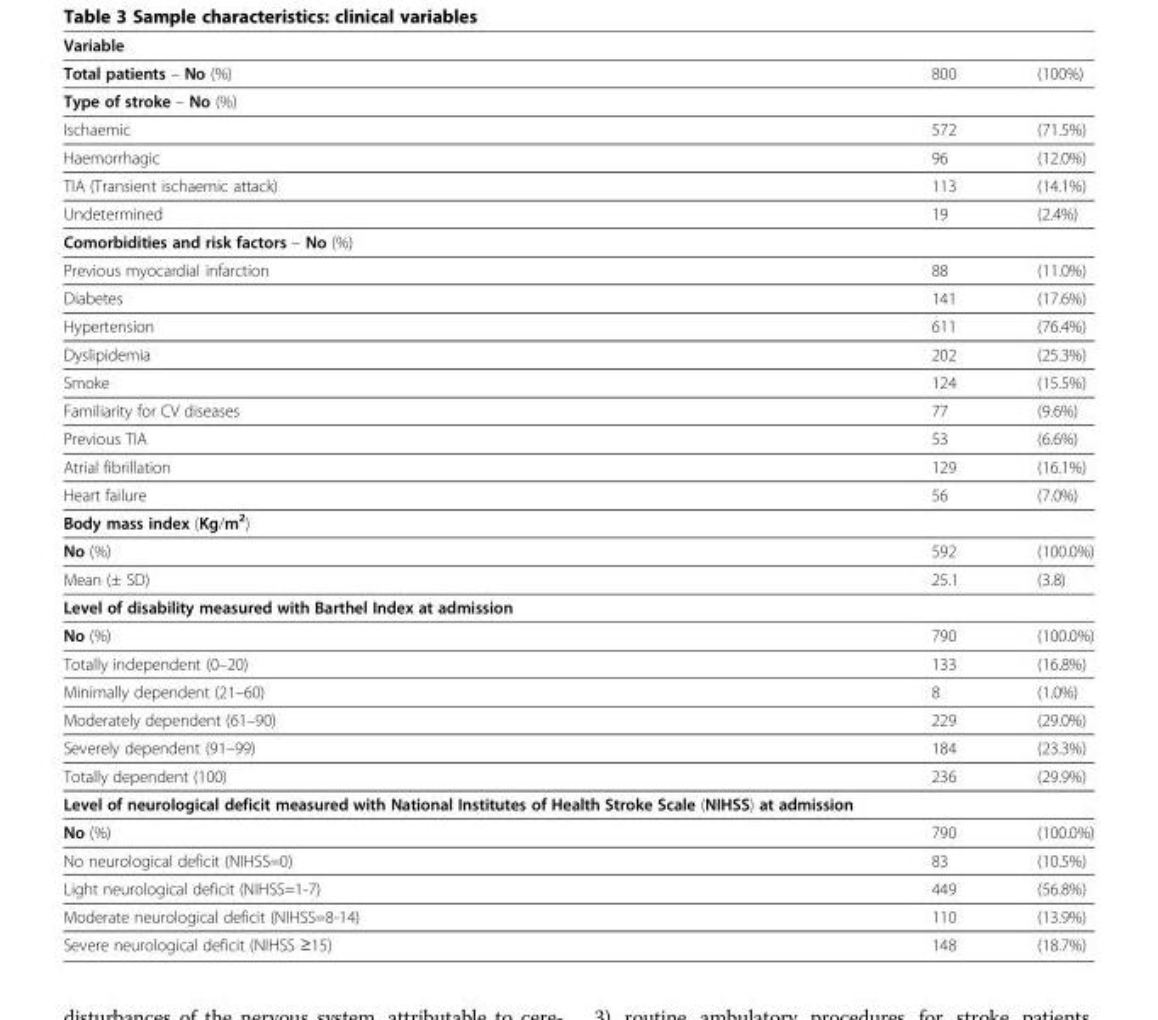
<table><tbody><tr><td>Total patients – No (%)</td><td>800</td><td>(100%)</td></tr><tr><td colspan="3">Type of stroke – No (%)</td></tr><tr><td>Ischaemic</td><td>572</td><td>(71.5%)</td></tr><tr><td>Haemorrhagic</td><td>96</td><td>(12.0%)</td></tr><tr><td>TIA (Transient ischaemic attack)</td><td>113</td><td>(14.1%)</td></tr><tr><td>Undetermined</td><td>19</td><td>(2.4%)</td></tr><tr><td colspan="3">Comorbidities and risk factors – No (%)</td></tr><tr><td>Previous myocardial infarction</td><td>88</td><td>(11.0%)</td></tr><tr><td>Diabetes</td><td>141</td><td>(17.6%)</td></tr><tr><td>Hypertension</td><td>611</td><td>(76.4%)</td></tr><tr><td>Dyslipidemia</td><td>202</td><td>(25.3%)</td></tr><tr><td>Smoke</td><td>124</td><td>(15.5%)</td></tr><tr><td>Familiarity for CV diseases</td><td>77</td><td>(9.6%)</td></tr><tr><td>Previous TIA</td><td>53</td><td>(6.6%)</td></tr><tr><td>Atrial fibrillation</td><td>129</td><td>(16.1%)</td></tr><tr><td>Heart failure</td><td>56</td><td>(7.0%)</td></tr><tr><td colspan="3">Body mass index (Kg/m<sup>2</sup>)</td></tr><tr><td>No (%)</td><td>592</td><td>(100.0%)</td></tr><tr><td>Mean (± SD)</td><td>25.1</td><td>(3.8)</td></tr><tr><td colspan="3">Level of disability measured with Barthel Index at admission</td></tr><tr><td>No (%)</td><td>790</td><td>(100.0%)</td></tr><tr><td>Totally independent (0–20)</td><td>133</td><td>(16.8%)</td></tr><tr><td>Minimally dependent (21–60)</td><td>8</td><td>(1.0%)</td></tr><tr><td>Moderately dependent (61–90)</td><td>229</td><td>(29.0%)</td></tr><tr><td>Severely dependent (91–99)</td><td>184</td><td>(23.3%)</td></tr><tr><td>Totally dependent (100)</td><td>236</td><td>(29.9%)</td></tr><tr><td colspan="3">Level of neurological deficit measured with National Institutes of Health Stroke Scale (NIHSS) at admission</td></tr><tr><td>No (%)</td><td>790</td><td>(100.0%)</td></tr><tr><td>No neurological deficit (NIHSS=0)</td><td>83</td><td>(10.5%)</td></tr><tr><td>Light neurological deficit (NIHSS=1-7)</td><td>449</td><td>(56.8%)</td></tr><tr><td>Moderate neurological deficit (NIHSS=8-14)</td><td>110</td><td>(13.9%)</td></tr><tr><td>Severe neurological deficit (NIHSS ≥15)</td><td>148</td><td>(18.7%)</td></tr></tbody></table>